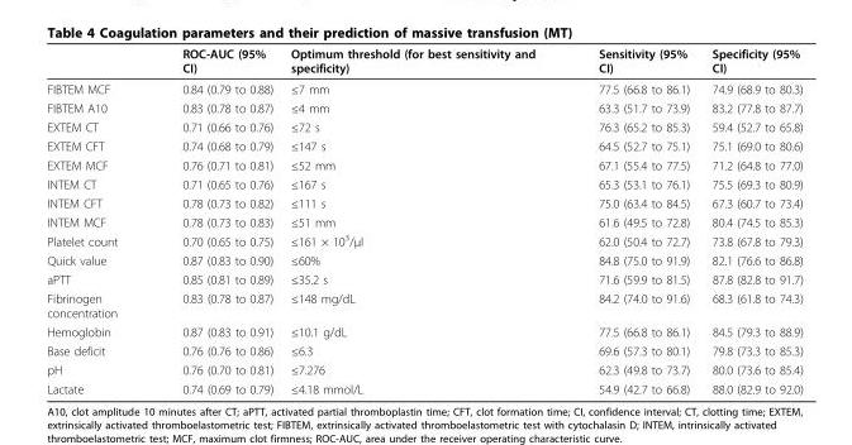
<table><thead><tr><td></td><td>ROC-AUC (95% CI)</td><td>Optimum threshold (for best sensitivity and specificity)</td><td>Sensitivity (95% CI)</td><td>Specificity (95% CI)</td></tr></thead><tbody><tr><td>FIBTEM MCF</td><td>0.84 (0.79 to 0.88)</td><td>≤7 mm</td><td>77.5 (66.8 to 86.1)</td><td>74.9 (68.9 to 80.3)</td></tr><tr><td>FIBTEM A10</td><td>0.83 (0.78 to 0.87)</td><td>≤4 mm</td><td>63.3 (51.7 to 73.9)</td><td>83.2 (77.8 to 87.7)</td></tr><tr><td>EXTEM CT</td><td>0.71 (0.66 to 0.76)</td><td>≤72 s</td><td>76.3 (65.2 to 85.3)</td><td>59.4 (52.7 to 65.8)</td></tr><tr><td>EXTEM CFT</td><td>0.74 (0.68 to 0.79)</td><td>≤147 s</td><td>64.5 (52.7 to 75.1)</td><td>75.1 (69.0 to 80.6)</td></tr><tr><td>EXTEM MCF</td><td>0.76 (0.71 to 0.81)</td><td>≤52 mm</td><td>67.1 (55.4 to 77.5)</td><td>71.2 (64.8 to 77.0)</td></tr><tr><td>INTEM CT</td><td>0.71 (0.65 to 0.76)</td><td>≤167 s</td><td>65.3 (53.1 to 76.1)</td><td>75.5 (69.3 to 80.9)</td></tr><tr><td>INTEM CFT</td><td>0.78 (0.73 to 0.82)</td><td>≤111 s</td><td>75.0 (63.4 to 84.5)</td><td>67.3 (60.7 to 73.4)</td></tr><tr><td>INTEM MCF</td><td>0.78 (0.73 to 0.83)</td><td>≤51 mm</td><td>61.6 (49.5 to 72.8)</td><td>80.4 (74.5 to 85.3)</td></tr><tr><td>Platelet count</td><td>0.70 (0.65 to 0.75)</td><td>≤161 × 10<sup>3</sup>/μl</td><td>62.0 (50.4 to 72.7)</td><td>73.8 (67.8 to 79.3)</td></tr><tr><td>Quick value</td><td>0.87 (0.83 to 0.90)</td><td>≤60%</td><td>84.8 (75.0 to 91.9)</td><td>82.1 (76.6 to 86.8)</td></tr><tr><td>aPTT</td><td>0.85 (0.81 to 0.89)</td><td>≤35.2 s</td><td>71.6 (59.9 to 81.5)</td><td>87.8 (82.8 to 91.7)</td></tr><tr><td>Fibrinogen concentration</td><td>0.83 (0.78 to 0.87)</td><td>≤148 mg/dL</td><td>84.2 (74.0 to 91.6)</td><td>68.3 (61.8 to 74.3)</td></tr><tr><td>Hemoglobin</td><td>0.87 (0.83 to 0.91)</td><td>≤10.1 g/dL</td><td>77.5 (66.8 to 86.1)</td><td>84.5 (79.3 to 88.9)</td></tr><tr><td>Base deficit</td><td>0.76 (0.76 to 0.86)</td><td>≤6.3</td><td>69.6 (57.3 to 80.1)</td><td>79.8 (73.3 to 85.3)</td></tr><tr><td>pH</td><td>0.76 (0.70 to 0.81)</td><td>≤7.276</td><td>62.3 (49.8 to 73.7)</td><td>80.0 (73.6 to 85.4)</td></tr><tr><td>Lactate</td><td>0.74 (0.69 to 0.79)</td><td>≤4.18 mmol/L</td><td>54.9 (42.7 to 66.8)</td><td>88.0 (82.9 to 92.0)</td></tr></tbody></table>